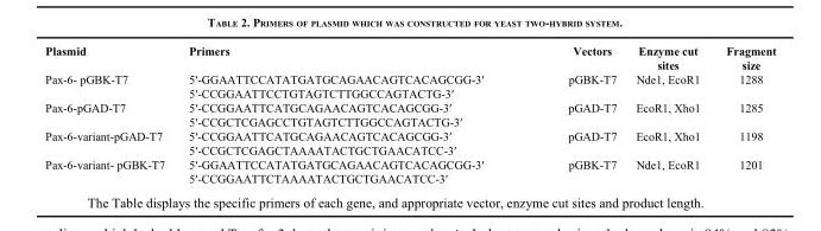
<table><thead><tr><td>Plasmid</td><td>Primers</td><td>Vectors</td><td>Enzyme cut sites</td><td>Fragment size</td></tr></thead><tbody><tr><td rowspan="2">Pax-6- pGBK-T7</td><td>5′-GGAATTCCATATGATGCAGAACAGTCACAGCGG-3′</td><td>pGBK-T7</td><td>Nde1, EcoR1</td><td>1288</td></tr><tr><td>5′-CCGGAATTCCTGTAGTCTTGGCCAGTACTG-3′</td><td></td><td></td><td></td></tr><tr><td rowspan="2">Pax-6-pGAD-T7</td><td>5′-CCGGAATTCATGCAGAACAGTCACAGCGG-3′</td><td>pGAD-T7</td><td>EcoR1, Xho1</td><td>1285</td></tr><tr><td>5′-CCGCTCGAGCCTGTAGTCTTGGCCAGTACTG-3′</td><td></td><td></td><td></td></tr><tr><td rowspan="2">Pax-6-variant-pGAD-T7</td><td>5′-CCGGAATTCATGCAGAACAGTCACAGCGG-3′</td><td>pGAD-T7</td><td>EcoR1, Xho1</td><td>1198</td></tr><tr><td>5′-CCGCTCGAGCTAAAATACTGCTGAACATCC-3′</td><td></td><td></td><td></td></tr><tr><td rowspan="2">Pax-6-variant- pGBK-T7</td><td>5′-GGAATTCCATATGATGCAGAACAGTCACAGCGG-3′</td><td>pGBK-T7</td><td>Nde1, EcoR1</td><td>1201</td></tr><tr><td>5′-CCGGAATTCTAAAATACTGCTGAACATCC-3′</td><td></td><td></td><td></td></tr></tbody></table>